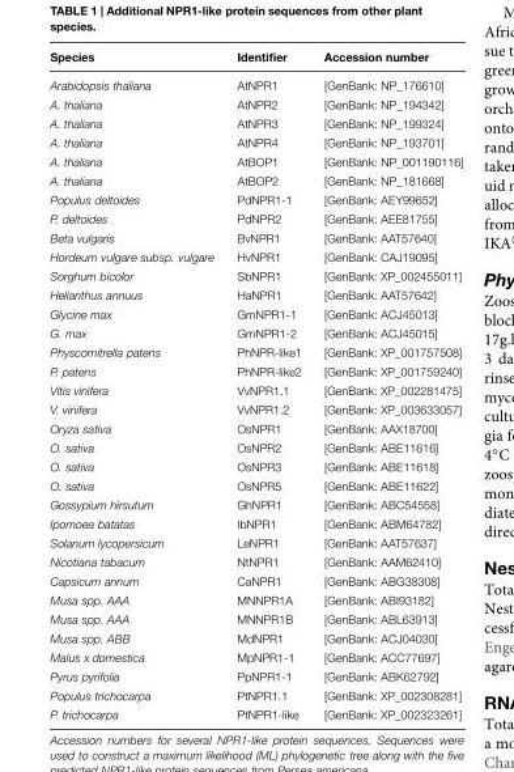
<table><thead><tr><td>Species</td><td>Identifier</td><td>Accession number</td></tr></thead><tbody><tr><td>Arabidopsis thaliana</td><td>AtNPR1</td><td>[GenBank: NP_176610]</td></tr><tr><td>A. thaliana</td><td>AtNPR2</td><td>[GenBank: NP_194342]</td></tr><tr><td>A. thaliana</td><td>AtNPR3</td><td>[GenBank: NP_199324]</td></tr><tr><td>A. thaliana</td><td>AtNPR4</td><td>[GenBank: NP_193701]</td></tr><tr><td>A. thaliana</td><td>AtBOP1</td><td>[GenBank: NP_001190116]</td></tr><tr><td>A. thaliana</td><td>AtBOP2</td><td>[GenBank: NP_181668]</td></tr><tr><td>Populus deltoides</td><td>PdNPR1-1</td><td>[GenBank: AEY99652]</td></tr><tr><td>P. deltoides</td><td>PdNPR2</td><td>[GenBank: AEE81755]</td></tr><tr><td>Beta vulgaris</td><td>BvNPR1</td><td>[GenBank: AAT57640]</td></tr><tr><td>Hordeum vulgare subsp. vulgare</td><td>HvNPR1</td><td>[GenBank: CAJ19095]</td></tr><tr><td>Sorghum bicolor</td><td>SbNPR1</td><td>[GenBank: XP_002455011]</td></tr><tr><td>Helianthus annuus</td><td>HaNPR1</td><td>[GenBank: AAT57642]</td></tr><tr><td>Glycine max</td><td>GmNPR1-1</td><td>[GenBank: ACJ45013]</td></tr><tr><td>G. max</td><td>GmNPR1-2</td><td>[GenBank: ACJ45015]</td></tr><tr><td>Physcomitrella patens</td><td>PhNPR-like1</td><td>[GenBank: XP_001757508]</td></tr><tr><td>P. patens</td><td>PhNPR-like2</td><td>[GenBank: XP_001759240]</td></tr><tr><td>Vitis vinifera</td><td>VvNPR1.1</td><td>[GenBank: XP_002281475]</td></tr><tr><td>V. vinifera</td><td>VvNPR1.2</td><td>[GenBank: XP_003633057]</td></tr><tr><td>Oryza sativa</td><td>OsNPR1</td><td>[GenBank: AAX18700]</td></tr><tr><td>O. sativa</td><td>OsNPR2</td><td>[GenBank: ABE11616]</td></tr><tr><td>O. sativa</td><td>OsNPR3</td><td>[GenBank: ABE11618]</td></tr><tr><td>O. sativa</td><td>OsNPR5</td><td>[GenBank: ABE11622]</td></tr><tr><td>Gossypium hirsutum</td><td>GhNPR1</td><td>[GenBank: ABC54558]</td></tr><tr><td>Ipomoea batatas</td><td>IbNPR1</td><td>[GenBank: ABM64782]</td></tr><tr><td>Solanum lycopersicum</td><td>LeNPR1</td><td>[GenBank: AAT57637]</td></tr><tr><td>Nicotiana tabacum</td><td>NtNPR1</td><td>[GenBank: AAM62410]</td></tr><tr><td>Capsicum annum</td><td>CaNPR1</td><td>[GenBank: ABG38308]</td></tr><tr><td>Musa spp. AAA</td><td>MNNPR1A</td><td>[GenBank: ABI93182]</td></tr><tr><td>Musa spp. AAA</td><td>MNNPR1B</td><td>[GenBank: ABL63913]</td></tr><tr><td>Musa spp. ABB</td><td>MdNPR1</td><td>[GenBank: ACJ04030]</td></tr><tr><td>Malus x domestica</td><td>MpNPR1-1</td><td>[GenBank: ACC77697]</td></tr><tr><td>Pyrus pyrifolia</td><td>PpNPR1-1</td><td>[GenBank: ABK62792]</td></tr><tr><td>Populus trichocarpa</td><td>PtNPR1.1</td><td>[GenBank: XP_002308281]</td></tr><tr><td>P. trichocarpa</td><td>PtNPR1-like</td><td>[GenBank: XP_002323261]</td></tr></tbody></table>